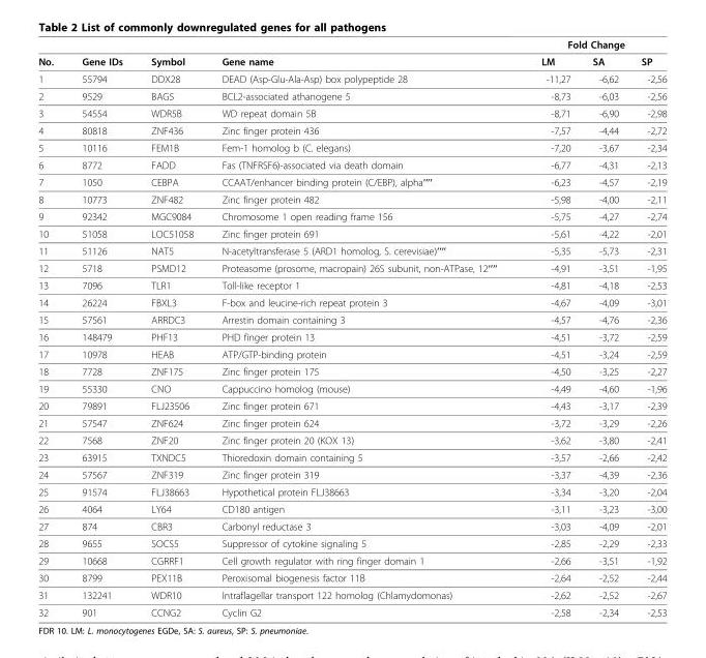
<table><thead><tr><td rowspan="2">No.</td><td rowspan="2">Gene IDs</td><td rowspan="2">Symbol</td><td rowspan="2">Gene name</td><td colspan="3">Fold Change</td></tr><tr><td>LM</td><td>SA</td><td>SP</td></tr></thead><tbody><tr><td>1</td><td>55794</td><td>DDX28</td><td>DEAD (Asp-Glu-Ala-Asp) box polypeptide 28</td><td>-11,27</td><td>-6,62</td><td>-2,56</td></tr><tr><td>2</td><td>9529</td><td>BAG5</td><td>BCL2-associated athanogene 5</td><td>-8,73</td><td>-6,03</td><td>-2,56</td></tr><tr><td>3</td><td>54554</td><td>WDR5B</td><td>WD repeat domain 5B</td><td>-8,71</td><td>-6,90</td><td>-2,98</td></tr><tr><td>4</td><td>80818</td><td>ZNF436</td><td>Zinc finger protein 436</td><td>-7,57</td><td>-4,44</td><td>-2,72</td></tr><tr><td>5</td><td>10116</td><td>FEM1B</td><td>Fem-1 homolog b (C. elegans)</td><td>-7,20</td><td>-3,67</td><td>-2,34</td></tr><tr><td>6</td><td>8772</td><td>FADD</td><td>Fas (TNFRSF6)-associated via death domain</td><td>-6,77</td><td>-4,31</td><td>-2,13</td></tr><tr><td>7</td><td>1050</td><td>CEBPA</td><td>CCAAT/enhancer binding protein (C/EBP), alpha′′′′</td><td>-6,23</td><td>-4,57</td><td>-2,19</td></tr><tr><td>8</td><td>10773</td><td>ZNF482</td><td>Zinc finger protein 482</td><td>-5,98</td><td>-4,00</td><td>-2,11</td></tr><tr><td>9</td><td>92342</td><td>MGC9084</td><td>Chromosome 1 open reading frame 156</td><td>-5,75</td><td>-4,27</td><td>-2,74</td></tr><tr><td>10</td><td>51058</td><td>LOC51058</td><td>Zinc finger protein 691</td><td>-5,61</td><td>-4,22</td><td>-2,01</td></tr><tr><td>11</td><td>51126</td><td>NAT5</td><td>N-acetyltransferase 5 (ARD1 homolog, S. cerevisiae)′′′′</td><td>-5,35</td><td>-5,73</td><td>-2,31</td></tr><tr><td>12</td><td>5718</td><td>PSMD12</td><td>Proteasome (prosome, macropain) 26S subunit, non-ATPase, 12′′′′</td><td>-4,91</td><td>-3,51</td><td>-1,95</td></tr><tr><td>13</td><td>7096</td><td>TLR1</td><td>Toll-like receptor 1</td><td>-4,81</td><td>-4,18</td><td>-2,53</td></tr><tr><td>14</td><td>26224</td><td>FBXL3</td><td>F-box and leucine-rich repeat protein 3</td><td>-4,67</td><td>-4,09</td><td>-3,01</td></tr><tr><td>15</td><td>57561</td><td>ARRDC3</td><td>Arrestin domain containing 3</td><td>-4,57</td><td>-4,76</td><td>-2,36</td></tr><tr><td>16</td><td>148479</td><td>PHF13</td><td>PHD finger protein 13</td><td>-4,51</td><td>-3,72</td><td>-2,59</td></tr><tr><td>17</td><td>10978</td><td>HEAB</td><td>ATP/GTP-binding protein</td><td>-4,51</td><td>-3,24</td><td>-2,59</td></tr><tr><td>18</td><td>7728</td><td>ZNF175</td><td>Zinc finger protein 175</td><td>-4,50</td><td>-3,25</td><td>-2,27</td></tr><tr><td>19</td><td>55330</td><td>CNO</td><td>Cappuccino homolog (mouse)</td><td>-4,49</td><td>-4,60</td><td>-1,96</td></tr><tr><td>20</td><td>79891</td><td>FLJ23506</td><td>Zinc finger protein 671</td><td>-4,43</td><td>-3,17</td><td>-2,39</td></tr><tr><td>21</td><td>57547</td><td>ZNF624</td><td>Zinc finger protein 624</td><td>-3,72</td><td>-3,29</td><td>-2,26</td></tr><tr><td>22</td><td>7568</td><td>ZNF20</td><td>Zinc finger protein 20 (KOX 13)</td><td>-3,62</td><td>-3,80</td><td>-2,41</td></tr><tr><td>23</td><td>63915</td><td>TXNDC5</td><td>Thioredoxin domain containing 5</td><td>-3,57</td><td>-2,66</td><td>-2,42</td></tr><tr><td>24</td><td>57567</td><td>ZNF319</td><td>Zinc finger protein 319</td><td>-3,37</td><td>-4,39</td><td>-2,36</td></tr><tr><td>25</td><td>91574</td><td>FLJ38663</td><td>Hypothetical protein FLJ38663</td><td>-3,34</td><td>-3,20</td><td>-2,04</td></tr><tr><td>26</td><td>4064</td><td>LY64</td><td>CD180 antigen</td><td>-3,11</td><td>-3,23</td><td>-3,00</td></tr><tr><td>27</td><td>874</td><td>CBR3</td><td>Carbonyl reductase 3</td><td>-3,03</td><td>-4,09</td><td>-2,01</td></tr><tr><td>28</td><td>9655</td><td>SOCS5</td><td>Suppressor of cytokine signaling 5</td><td>-2,85</td><td>-2,29</td><td>-2,33</td></tr><tr><td>29</td><td>10668</td><td>CGRRF1</td><td>Cell growth regulator with ring finger domain 1</td><td>-2,66</td><td>-3,51</td><td>-1,92</td></tr><tr><td>30</td><td>8799</td><td>PEX11B</td><td>Peroxisomal biogenesis factor 11B</td><td>-2,64</td><td>-2,52</td><td>-2,44</td></tr><tr><td>31</td><td>132241</td><td>WDR10</td><td>Intraflagellar transport 122 homolog (Chlamydomonas)</td><td>-2,62</td><td>-2,52</td><td>-2,67</td></tr><tr><td>32</td><td>901</td><td>CCNG2</td><td>Cyclin G2</td><td>-2,58</td><td>-2,34</td><td>-2,53</td></tr></tbody></table>